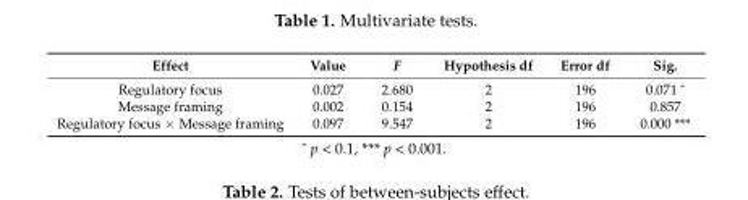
<table><thead><tr><td>Effect</td><td>Value</td><td>F</td><td>Hypothesis df</td><td>Error df</td><td>Sig.</td></tr></thead><tbody><tr><td>Regulatory focus</td><td>0.027</td><td>2.680</td><td>2</td><td>196</td><td>0.071 ˆ</td></tr><tr><td>Message framing</td><td>0.002</td><td>0.154</td><td>2</td><td>196</td><td>0.857</td></tr><tr><td>Regulatory focus × Message framing</td><td>0.097</td><td>9.547</td><td>2</td><td>196</td><td>0.000 ***</td></tr></tbody></table>